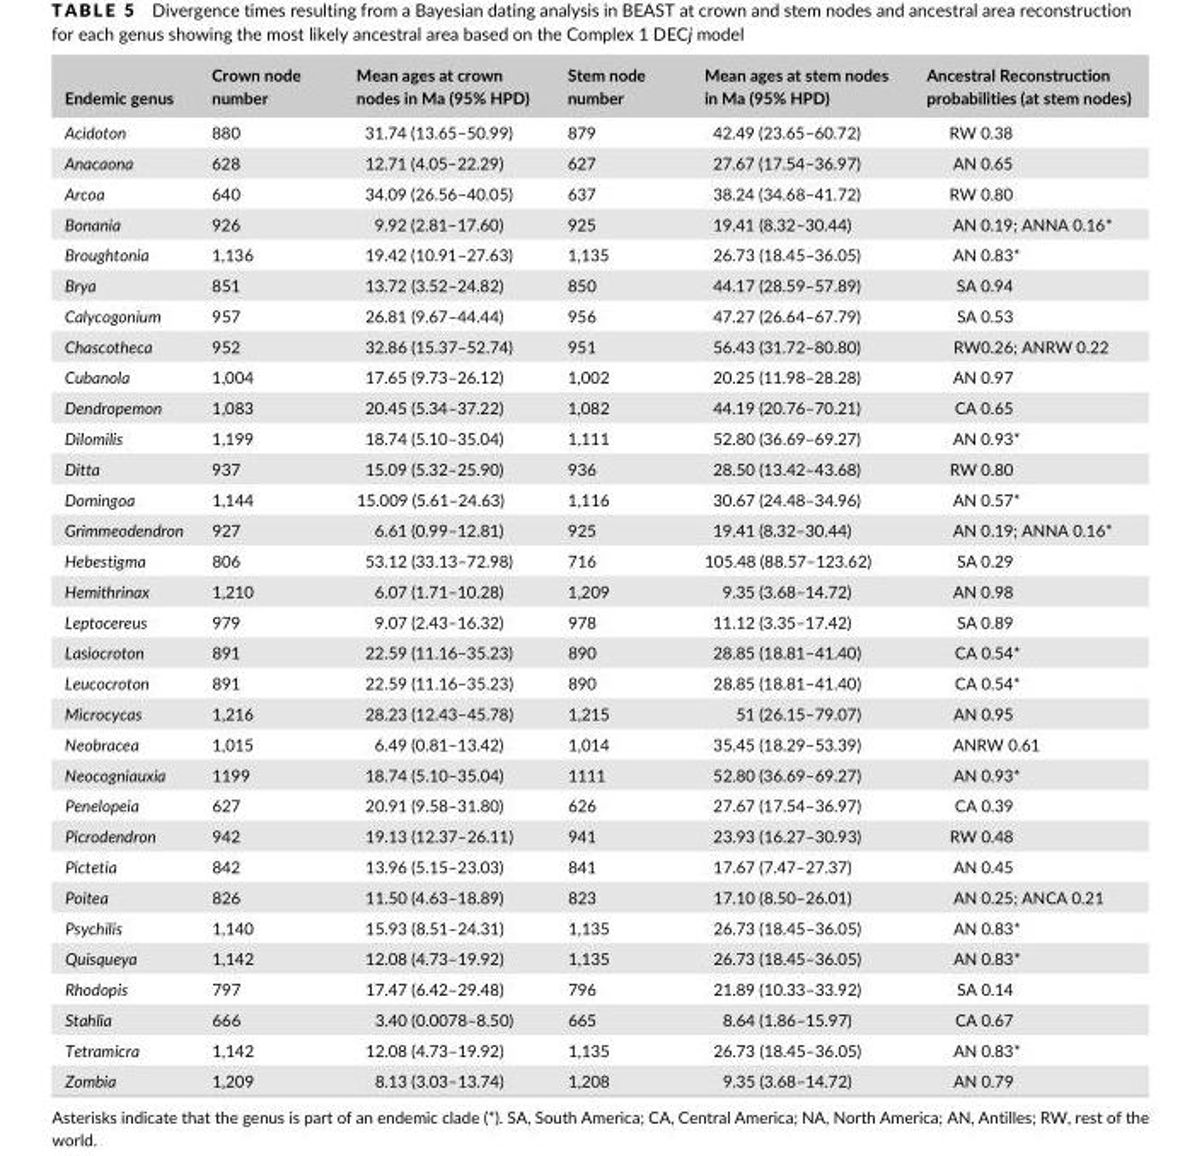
<table><thead><tr><td>Endemic genus</td><td>Crown node number</td><td>Mean ages at crown nodes in Ma (95% HPD)</td><td>Stem node number</td><td>Mean ages at stem nodes in Ma (95% HPD)</td><td>Ancestral Reconstruction probabilities (at stem nodes)</td></tr></thead><tbody><tr><td>Acidoton</td><td>880</td><td>31.74 (13.65–50.99)</td><td>879</td><td>42.49 (23.65–60.72)</td><td>RW 0.38</td></tr><tr><td>Anacaona</td><td>628</td><td>12.71 (4.05–22.29)</td><td>627</td><td>27.67 (17.54–36.97)</td><td>AN 0.65</td></tr><tr><td>Arcoa</td><td>640</td><td>34.09 (26.56–40.05)</td><td>637</td><td>38.24 (34.68–41.72)</td><td>RW 0.80</td></tr><tr><td>Bonania</td><td>926</td><td>9.92 (2.81–17.60)</td><td>925</td><td>19.41 (8.32–30.44)</td><td>AN 0.19; ANNA 0.16*</td></tr><tr><td>Broughtonia</td><td>1,136</td><td>19.42 (10.91–27.63)</td><td>1,135</td><td>26.73 (18.45–36.05)</td><td>AN 0.83*</td></tr><tr><td>Brya</td><td>851</td><td>13.72 (3.52–24.82)</td><td>850</td><td>44.17 (28.59–57.89)</td><td>SA 0.94</td></tr><tr><td>Calycogonium</td><td>957</td><td>26.81 (9.67–44.44)</td><td>956</td><td>47.27 (26.64–67.79)</td><td>SA 0.53</td></tr><tr><td>Chascotheca</td><td>952</td><td>32.86 (15.37–52.74)</td><td>951</td><td>56.43 (31.72–80.80)</td><td>RW0.26; ANRW 0.22</td></tr><tr><td>Cubanola</td><td>1,004</td><td>17.65 (9.73–26.12)</td><td>1,002</td><td>20.25 (11.98–28.28)</td><td>AN 0.97</td></tr><tr><td>Dendropemon</td><td>1,083</td><td>20.45 (5.34–37.22)</td><td>1,082</td><td>44.19 (20.76–70.21)</td><td>CA 0.65</td></tr><tr><td>Dilomilis</td><td>1,199</td><td>18.74 (5.10–35.04)</td><td>1,111</td><td>52.80 (36.69–69.27)</td><td>AN 0.93*</td></tr><tr><td>Ditta</td><td>937</td><td>15.09 (5.32–25.90)</td><td>936</td><td>28.50 (13.42–43.68)</td><td>RW 0.80</td></tr><tr><td>Domingoa</td><td>1,144</td><td>15.009 (5.61–24.63)</td><td>1,116</td><td>30.67 (24.48–34.96)</td><td>AN 0.57*</td></tr><tr><td>Grimmeodendron</td><td>927</td><td>6.61 (0.99–12.81)</td><td>925</td><td>19.41 (8.32–30.44)</td><td>AN 0.19; ANNA 0.16*</td></tr><tr><td>Hebestigma</td><td>806</td><td>53.12 (33.13–72.98)</td><td>716</td><td>105.48 (88.57–123.62)</td><td>SA 0.29</td></tr><tr><td>Hemithrinax</td><td>1,210</td><td>6.07 (1.71–10.28)</td><td>1,209</td><td>9.35 (3.68–14.72)</td><td>AN 0.98</td></tr><tr><td>Leptocereus</td><td>979</td><td>9.07 (2.43–16.32)</td><td>978</td><td>11.12 (3.35–17.42)</td><td>SA 0.89</td></tr><tr><td>Lasiocroton</td><td>891</td><td>22.59 (11.16–35.23)</td><td>890</td><td>28.85 (18.81–41.40)</td><td>CA 0.54*</td></tr><tr><td>Leucocroton</td><td>891</td><td>22.59 (11.16–35.23)</td><td>890</td><td>28.85 (18.81–41.40)</td><td>CA 0.54*</td></tr><tr><td>Microcycas</td><td>1,216</td><td>28.23 (12.43–45.78)</td><td>1,215</td><td>51 (26.15–79.07)</td><td>AN 0.95</td></tr><tr><td>Neobracea</td><td>1,015</td><td>6.49 (0.81–13.42)</td><td>1,014</td><td>35.45 (18.29–53.39)</td><td>ANRW 0.61</td></tr><tr><td>Neocogniauxia</td><td>1199</td><td>18.74 (5.10–35.04)</td><td>1111</td><td>52.80 (36.69–69.27)</td><td>AN 0.93*</td></tr><tr><td>Penelopeia</td><td>627</td><td>20.91 (9.58–31.80)</td><td>626</td><td>27.67 (17.54–36.97)</td><td>CA 0.39</td></tr><tr><td>Picrodendron</td><td>942</td><td>19.13 (12.37–26.11)</td><td>941</td><td>23.93 (16.27–30.93)</td><td>RW 0.48</td></tr><tr><td>Pictetia</td><td>842</td><td>13.96 (5.15–23.03)</td><td>841</td><td>17.67 (7.47–27.37)</td><td>AN 0.45</td></tr><tr><td>Poitea</td><td>826</td><td>11.50 (4.63–18.89)</td><td>823</td><td>17.10 (8.50–26.01)</td><td>AN 0.25; ANCA 0.21</td></tr><tr><td>Psychilis</td><td>1,140</td><td>15.93 (8.51–24.31)</td><td>1,135</td><td>26.73 (18.45–36.05)</td><td>AN 0.83*</td></tr><tr><td>Quisqueya</td><td>1,142</td><td>12.08 (4.73–19.92)</td><td>1,135</td><td>26.73 (18.45–36.05)</td><td>AN 0.83*</td></tr><tr><td>Rhodopis</td><td>797</td><td>17.47 (6.42–29.48)</td><td>796</td><td>21.89 (10.33–33.92)</td><td>SA 0.14</td></tr><tr><td>Stahlia</td><td>666</td><td>3.40 (0.0078–8.50)</td><td>665</td><td>8.64 (1.86–15.97)</td><td>CA 0.67</td></tr><tr><td>Tetramicra</td><td>1,142</td><td>12.08 (4.73–19.92)</td><td>1,135</td><td>26.73 (18.45–36.05)</td><td>AN 0.83*</td></tr><tr><td>Zombia</td><td>1,209</td><td>8.13 (3.03–13.74)</td><td>1,208</td><td>9.35 (3.68–14.72)</td><td>AN 0.79</td></tr></tbody></table>